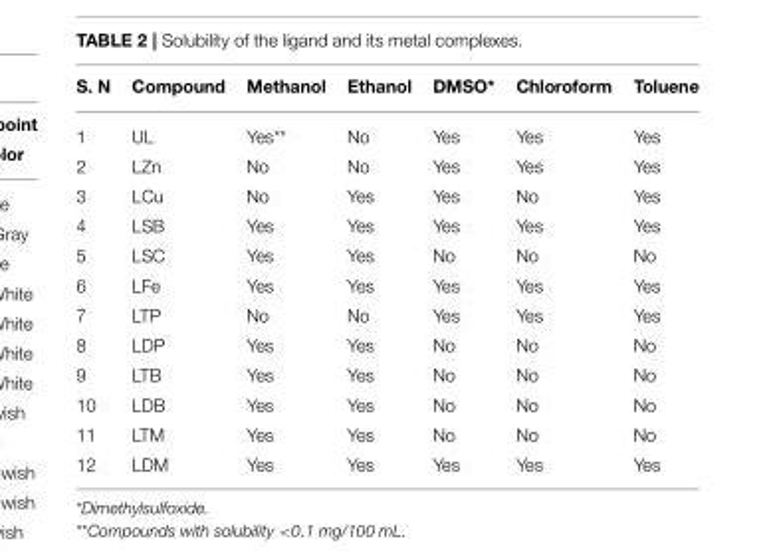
<table><thead><tr><td>S. N</td><td>Compound</td><td>Methanol</td><td>Ethanol</td><td>DMSO*</td><td>Chloroform</td><td>Toluene</td></tr></thead><tbody><tr><td>1</td><td>UL</td><td>Yes**</td><td>No</td><td>Yes</td><td>Yes</td><td>Yes</td></tr><tr><td>2</td><td>LZn</td><td>No</td><td>No</td><td>Yes</td><td>Yes</td><td>Yes</td></tr><tr><td>3</td><td>LCu</td><td>No</td><td>Yes</td><td>Yes</td><td>No</td><td>Yes</td></tr><tr><td>4</td><td>LSB</td><td>Yes</td><td>Yes</td><td>Yes</td><td>Yes</td><td>Yes</td></tr><tr><td>5</td><td>LSC</td><td>Yes</td><td>Yes</td><td>No</td><td>No</td><td>No</td></tr><tr><td>6</td><td>LFe</td><td>Yes</td><td>Yes</td><td>Yes</td><td>Yes</td><td>Yes</td></tr><tr><td>7</td><td>LTP</td><td>No</td><td>No</td><td>Yes</td><td>Yes</td><td>Yes</td></tr><tr><td>8</td><td>LDP</td><td>Yes</td><td>Yes</td><td>No</td><td>No</td><td>No</td></tr><tr><td>9</td><td>LTB</td><td>Yes</td><td>Yes</td><td>No</td><td>No</td><td>No</td></tr><tr><td>10</td><td>LDB</td><td>Yes</td><td>Yes</td><td>No</td><td>No</td><td>No</td></tr><tr><td>11</td><td>LTM</td><td>Yes</td><td>Yes</td><td>No</td><td>No</td><td>No</td></tr><tr><td>12</td><td>LDM</td><td>Yes</td><td>Yes</td><td>Yes</td><td>Yes</td><td>Yes</td></tr></tbody></table>